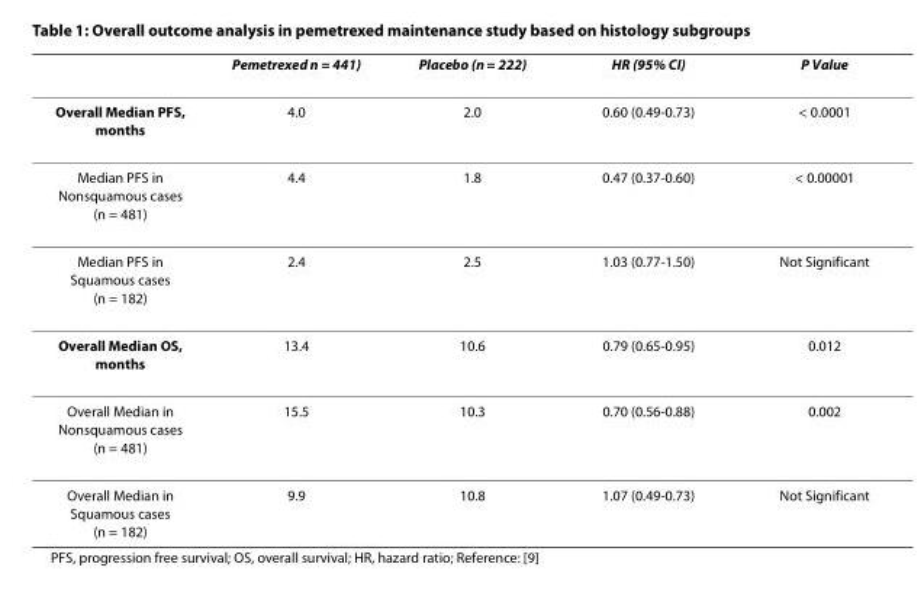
<table><thead><tr><td></td><td>Pemetrexed n = 441)</td><td>Placebo (n = 222)</td><td>HR (95% CI)</td><td>P Value</td></tr></thead><tbody><tr><td>Overall Median PFS, months</td><td>4.0</td><td>2.0</td><td>0.60 (0.49-0.73)</td><td>&lt; 0.0001</td></tr><tr><td>Median PFS in Nonsquamous cases (n = 481)</td><td>4.4</td><td>1.8</td><td>0.47 (0.37-0.60)</td><td>&lt; 0.00001</td></tr><tr><td>Median PFS in Squamous cases (n = 182)</td><td>2.4</td><td>2.5</td><td>1.03 (0.77-1.50)</td><td>Not Significant</td></tr><tr><td>Overall Median OS, months</td><td>13.4</td><td>10.6</td><td>0.79 (0.65-0.95)</td><td>0.012</td></tr><tr><td>Overall Median in Nonsquamous cases (n = 481)</td><td>15.5</td><td>10.3</td><td>0.70 (0.56-0.88)</td><td>0.002</td></tr><tr><td>Overall Median in Squamous cases (n = 182)</td><td>9.9</td><td>10.8</td><td>1.07 (0.49-0.73)</td><td>Not Significant</td></tr></tbody></table>